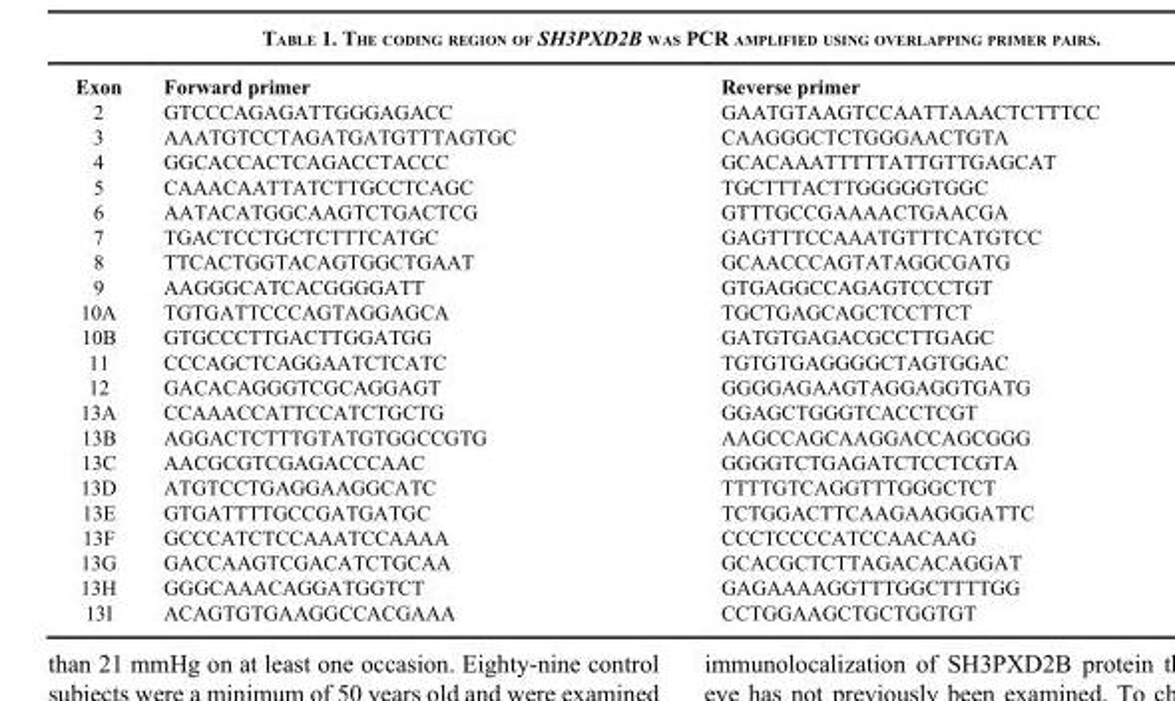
<table><thead><tr><td>Exon</td><td>Forward primer</td><td>Reverse primer</td></tr></thead><tbody><tr><td>2</td><td>GTCCCAGAGATTGGGAGACC</td><td>GAATGTAAGTCCAATTAAACTCTTTCC</td></tr><tr><td>3</td><td>AAATGTCCTAGATGATGTTTAGTGC</td><td>CAAGGGCTCTGGGAACTGTA</td></tr><tr><td>4</td><td>GGCACCACTCAGACCTACCC</td><td>GCACAAATTTTTATTGTTGAGCAT</td></tr><tr><td>5</td><td>CAAACAATTATCTTGCCTCAGC</td><td>TGCTTTACTTGGGGGTGGC</td></tr><tr><td>6</td><td>AATACATGGCAAGTCTGACTCG</td><td>GTTTGCCGAAAACTGAACGA</td></tr><tr><td>7</td><td>TGACTCCTGCTCTTTCATGC</td><td>GAGTTTCCAAATGTTTCATGTCC</td></tr><tr><td>8</td><td>TTCACTGGTACAGTGGCTGAAT</td><td>GCAACCCAGTATAGGCGATG</td></tr><tr><td>9</td><td>AAGGGCATCACGGGGATT</td><td>GTGAGGCCAGAGTCCCTGT</td></tr><tr><td>10A</td><td>TGTGATTCCCAGTAGGAGCA</td><td>TGCTGAGCAGCTCCTTCT</td></tr><tr><td>10B</td><td>GTGCCCTTGACTTGGATGG</td><td>GATGTGAGACGCCTTGAGC</td></tr><tr><td>11</td><td>CCCAGCTCAGGAATCTCATC</td><td>TGTGTGAGGGGCTAGTGGAC</td></tr><tr><td>12</td><td>GACACAGGGTCGCAGGAGT</td><td>GGGGAGAAGTAGGAGGTGATG</td></tr><tr><td>13A</td><td>CCAAACCATTCCATCTGCTG</td><td>GGAGCTGGGTCACCTCGT</td></tr><tr><td>13B</td><td>AGGACTCTTTGTATGTGGCCGTG</td><td>AAGCCAGCAAGGACCAGCGGG</td></tr><tr><td>13C</td><td>AACGCGTCGAGACCCAAC</td><td>GGGGTCTGAGATCTCCTCGTA</td></tr><tr><td>13D</td><td>ATGTCCTGAGGAAGGCATC</td><td>TTTTGTCAGGTTTGGGCTCT</td></tr><tr><td>13E</td><td>GTGATTTTGCCGATGATGC</td><td>TCTGGACTTCAAGAAGGGATTC</td></tr><tr><td>13F</td><td>GCCCATCTCCAAATCCAAAA</td><td>CCCTCCCCATCCAACAAG</td></tr><tr><td>13G</td><td>GACCAAGTCGACATCTGCAA</td><td>GCACGCTCTTAGACACAGGAT</td></tr><tr><td>13H</td><td>GGGCAAACAGGATGGTCT</td><td>GAGAAAAGGTTTGGCTTTTGG</td></tr><tr><td>13I</td><td>ACAGTGTGAAGGCCACGAAA</td><td>CCTGGAAGCTGCTGGTGT</td></tr></tbody></table>